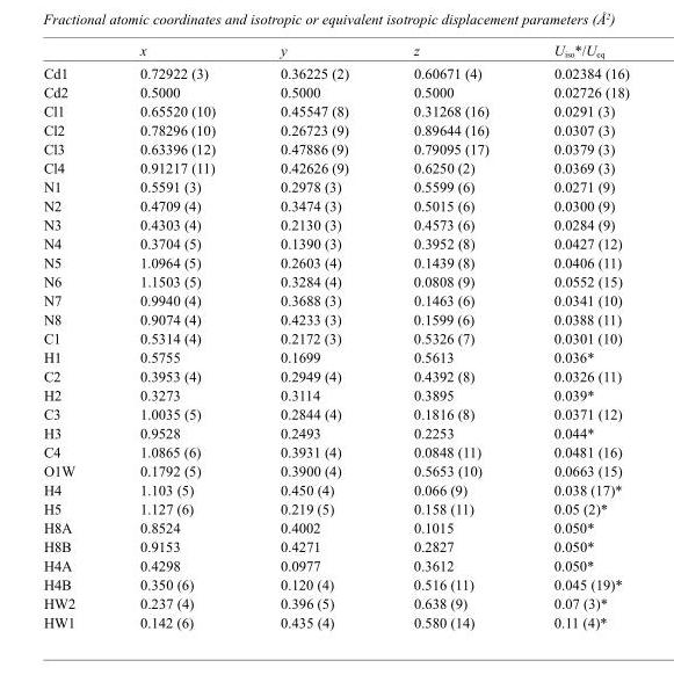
<table><thead><tr><td></td><td>x</td><td>y</td><td>z</td><td>U<sub>iso</sub>*/U<sub>eq</sub></td></tr></thead><tbody><tr><td>Cd1</td><td>0.72922 (3)</td><td>0.36225 (2)</td><td>0.60671 (4)</td><td>0.02384 (16)</td></tr><tr><td>Cd2</td><td>0.5000</td><td>0.5000</td><td>0.5000</td><td>0.02726 (18)</td></tr><tr><td>Cl1</td><td>0.65520 (10)</td><td>0.45547 (8)</td><td>0.31268 (16)</td><td>0.0291 (3)</td></tr><tr><td>Cl2</td><td>0.78296 (10)</td><td>0.26723 (9)</td><td>0.89644 (16)</td><td>0.0307 (3)</td></tr><tr><td>Cl3</td><td>0.63396 (12)</td><td>0.47886 (9)</td><td>0.79095 (17)</td><td>0.0379 (3)</td></tr><tr><td>Cl4</td><td>0.91217 (11)</td><td>0.42626 (9)</td><td>0.6250 (2)</td><td>0.0369 (3)</td></tr><tr><td>N1</td><td>0.5591 (3)</td><td>0.2978 (3)</td><td>0.5599 (6)</td><td>0.0271 (9)</td></tr><tr><td>N2</td><td>0.4709 (4)</td><td>0.3474 (3)</td><td>0.5015 (6)</td><td>0.0300 (9)</td></tr><tr><td>N3</td><td>0.4303 (4)</td><td>0.2130 (3)</td><td>0.4573 (6)</td><td>0.0284 (9)</td></tr><tr><td>N4</td><td>0.3704 (5)</td><td>0.1390 (3)</td><td>0.3952 (8)</td><td>0.0427 (12)</td></tr><tr><td>N5</td><td>1.0964 (5)</td><td>0.2603 (4)</td><td>0.1439 (8)</td><td>0.0406 (11)</td></tr><tr><td>N6</td><td>1.1503 (5)</td><td>0.3284 (4)</td><td>0.0808 (9)</td><td>0.0552 (15)</td></tr><tr><td>N7</td><td>0.9940 (4)</td><td>0.3688 (3)</td><td>0.1463 (6)</td><td>0.0341 (10)</td></tr><tr><td>N8</td><td>0.9074 (4)</td><td>0.4233 (3)</td><td>0.1599 (6)</td><td>0.0388 (11)</td></tr><tr><td>C1</td><td>0.5314 (4)</td><td>0.2172 (3)</td><td>0.5326 (7)</td><td>0.0301 (10)</td></tr><tr><td>H1</td><td>0.5755</td><td>0.1699</td><td>0.5613</td><td>0.036*</td></tr><tr><td>C2</td><td>0.3953 (4)</td><td>0.2949 (4)</td><td>0.4392 (8)</td><td>0.0326 (11)</td></tr><tr><td>H2</td><td>0.3273</td><td>0.3114</td><td>0.3895</td><td>0.039*</td></tr><tr><td>C3</td><td>1.0035 (5)</td><td>0.2844 (4)</td><td>0.1816 (8)</td><td>0.0371 (12)</td></tr><tr><td>H3</td><td>0.9528</td><td>0.2493</td><td>0.2253</td><td>0.044*</td></tr><tr><td>C4</td><td>1.0865 (6)</td><td>0.3931 (4)</td><td>0.0848 (11)</td><td>0.0481 (16)</td></tr><tr><td>O1W</td><td>0.1792 (5)</td><td>0.3900 (4)</td><td>0.5653 (10)</td><td>0.0663 (15)</td></tr><tr><td>H4</td><td>1.103 (5)</td><td>0.450 (4)</td><td>0.066 (9)</td><td>0.038 (17)*</td></tr><tr><td>H5</td><td>1.127 (6)</td><td>0.219 (5)</td><td>0.158 (11)</td><td>0.05 (2)*</td></tr><tr><td>H8A</td><td>0.8524</td><td>0.4002</td><td>0.1015</td><td>0.050*</td></tr><tr><td>H8B</td><td>0.9153</td><td>0.4271</td><td>0.2827</td><td>0.050*</td></tr><tr><td>H4A</td><td>0.4298</td><td>0.0977</td><td>0.3612</td><td>0.050*</td></tr><tr><td>H4B</td><td>0.350 (6)</td><td>0.120 (4)</td><td>0.516 (11)</td><td>0.045 (19)*</td></tr><tr><td>HW2</td><td>0.237 (4)</td><td>0.396 (5)</td><td>0.638 (9)</td><td>0.07 (3)*</td></tr><tr><td>HW1</td><td>0.142 (6)</td><td>0.435 (4)</td><td>0.580 (14)</td><td>0.11 (4)*</td></tr></tbody></table>